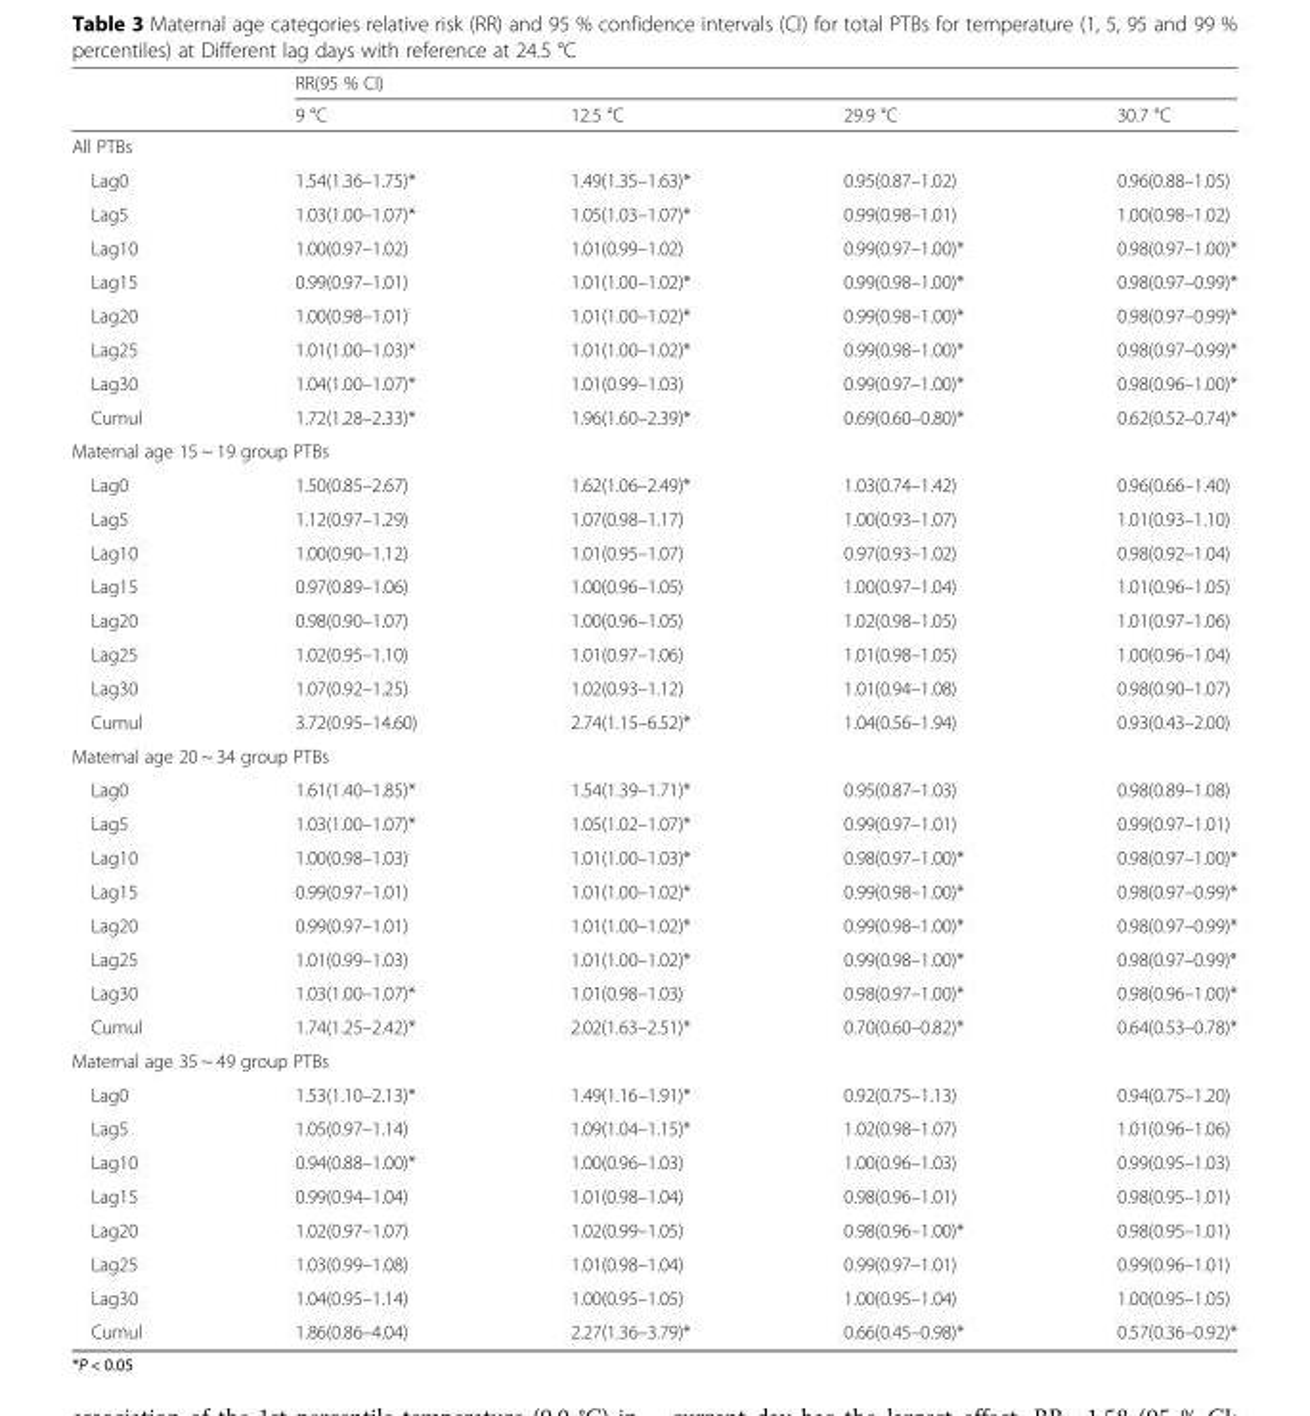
<table><thead><tr><td rowspan="2"></td><td colspan="4">RR(95 % CI)</td></tr><tr><td>9 °C</td><td>12.5 °C</td><td>29.9 °C</td><td>30.7 °C</td></tr></thead><tbody><tr><td colspan="5">All PTBs</td></tr><tr><td>Lag0</td><td>1.54(1.36–1.75)*</td><td>1.49(1.35–1.63)*</td><td>0.95(0.87–1.02)</td><td>0.96(0.88–1.05)</td></tr><tr><td>Lag5</td><td>1.03(1.00–1.07)*</td><td>1.05(1.03–1.07)*</td><td>0.99(0.98–1.01)</td><td>1.00(0.98–1.02)</td></tr><tr><td>Lag10</td><td>1.00(0.97–1.02)</td><td>1.01(0.99–1.02)</td><td>0.99(0.97–1.00)*</td><td>0.98(0.97–1.00)*</td></tr><tr><td>Lag15</td><td>0.99(0.97–1.01)</td><td>1.01(1.00–1.02)*</td><td>0.99(0.98–1.00)*</td><td>0.98(0.97–0.99)*</td></tr><tr><td>Lag20</td><td>1.00(0.98–1.01)</td><td>1.01(1.00–1.02)*</td><td>0.99(0.98–1.00)*</td><td>0.98(0.97–0.99)*</td></tr><tr><td>Lag25</td><td>1.01(1.00–1.03)*</td><td>1.01(1.00–1.02)*</td><td>0.99(0.98–1.00)*</td><td>0.98(0.97–0.99)*</td></tr><tr><td>Lag30</td><td>1.04(1.00–1.07)*</td><td>1.01(0.99–1.03)</td><td>0.99(0.97–1.00)*</td><td>0.98(0.96–1.00)*</td></tr><tr><td>Cumul</td><td>1.72(1.28–2.33)*</td><td>1.96(1.60–2.39)*</td><td>0.69(0.60–0.80)*</td><td>0.62(0.52–0.74)*</td></tr><tr><td colspan="5">Maternal age 15 ~ 19 group PTBs</td></tr><tr><td>Lag0</td><td>1.50(0.85–2.67)</td><td>1.62(1.06–2.49)*</td><td>1.03(0.74–1.42)</td><td>0.96(0.66–1.40)</td></tr><tr><td>Lag5</td><td>1.12(0.97–1.29)</td><td>1.07(0.98–1.17)</td><td>1.00(0.93–1.07)</td><td>1.01(0.93–1.10)</td></tr><tr><td>Lag10</td><td>1.00(0.90–1.12)</td><td>1.01(0.95–1.07)</td><td>0.97(0.93–1.02)</td><td>0.98(0.92–1.04)</td></tr><tr><td>Lag15</td><td>0.97(0.89–1.06)</td><td>1.00(0.96–1.05)</td><td>1.00(0.97–1.04)</td><td>1.01(0.96–1.05)</td></tr><tr><td>Lag20</td><td>0.98(0.90–1.07)</td><td>1.00(0.96–1.05)</td><td>1.02(0.98–1.05)</td><td>1.01(0.97–1.06)</td></tr><tr><td>Lag25</td><td>1.02(0.95–1.10)</td><td>1.01(0.97–1.06)</td><td>1.01(0.98–1.05)</td><td>1.00(0.96–1.04)</td></tr><tr><td>Lag30</td><td>1.07(0.92–1.25)</td><td>1.02(0.93–1.12)</td><td>1.01(0.94–1.08)</td><td>0.98(0.90–1.07)</td></tr><tr><td>Cumul</td><td>3.72(0.95–14.60)</td><td>2.74(1.15–6.52)*</td><td>1.04(0.56–1.94)</td><td>0.93(0.43–2.00)</td></tr><tr><td colspan="5">Maternal age 20 ~ 34 group PTBs</td></tr><tr><td>Lag0</td><td>1.61(1.40–1.85)*</td><td>1.54(1.39–1.71)*</td><td>0.95(0.87–1.03)</td><td>0.98(0.89–1.08)</td></tr><tr><td>Lag5</td><td>1.03(1.00–1.07)*</td><td>1.05(1.02–1.07)*</td><td>0.99(0.97–1.01)</td><td>0.99(0.97–1.01)</td></tr><tr><td>Lag10</td><td>1.00(0.98–1.03)</td><td>1.01(1.00–1.03)*</td><td>0.98(0.97–1.00)*</td><td>0.98(0.97–1.00)*</td></tr><tr><td>Lag15</td><td>0.99(0.97–1.01)</td><td>1.01(1.00–1.02)*</td><td>0.99(0.98–1.00)*</td><td>0.98(0.97–0.99)*</td></tr><tr><td>Lag20</td><td>0.99(0.97–1.01)</td><td>1.01(1.00–1.02)*</td><td>0.99(0.98–1.00)*</td><td>0.98(0.97–0.99)*</td></tr><tr><td>Lag25</td><td>1.01(0.99–1.03)</td><td>1.01(1.00–1.02)*</td><td>0.99(0.98–1.00)*</td><td>0.98(0.97–0.99)*</td></tr><tr><td>Lag30</td><td>1.03(1.00–1.07)*</td><td>1.01(0.98–1.03)</td><td>0.98(0.97–1.00)*</td><td>0.98(0.96–1.00)*</td></tr><tr><td>Cumul</td><td>1.74(1.25–2.42)*</td><td>2.02(1.63–2.51)*</td><td>0.70(0.60–0.82)*</td><td>0.64(0.53–0.78)*</td></tr><tr><td colspan="5">Maternal age 35 ~ 49 group PTBs</td></tr><tr><td>Lag0</td><td>1.53(1.10–2.13)*</td><td>1.49(1.16–1.91)*</td><td>0.92(0.75–1.13)</td><td>0.94(0.75–1.20)</td></tr><tr><td>Lag5</td><td>1.05(0.97–1.14)</td><td>1.09(1.04–1.15)*</td><td>1.02(0.98–1.07)</td><td>1.01(0.96–1.06)</td></tr><tr><td>Lag10</td><td>0.94(0.88–1.00)*</td><td>1.00(0.96–1.03)</td><td>1.00(0.96–1.03)</td><td>0.99(0.95–1.03)</td></tr><tr><td>Lag15</td><td>0.99(0.94–1.04)</td><td>1.01(0.98–1.04)</td><td>0.98(0.96–1.01)</td><td>0.98(0.95–1.01)</td></tr><tr><td>Lag20</td><td>1.02(0.97–1.07)</td><td>1.02(0.99–1.05)</td><td>0.98(0.96–1.00)*</td><td>0.98(0.95–1.01)</td></tr><tr><td>Lag25</td><td>1.03(0.99–1.08)</td><td>1.01(0.98–1.04)</td><td>0.99(0.97–1.01)</td><td>0.99(0.96–1.01)</td></tr><tr><td>Lag30</td><td>1.04(0.95–1.14)</td><td>1.00(0.95–1.05)</td><td>1.00(0.95–1.04)</td><td>1.00(0.95–1.05)</td></tr><tr><td>Cumul</td><td>1.86(0.86–4.04)</td><td>2.27(1.36–3.79)*</td><td>0.66(0.45–0.98)*</td><td>0.57(0.36–0.92)*</td></tr></tbody></table>